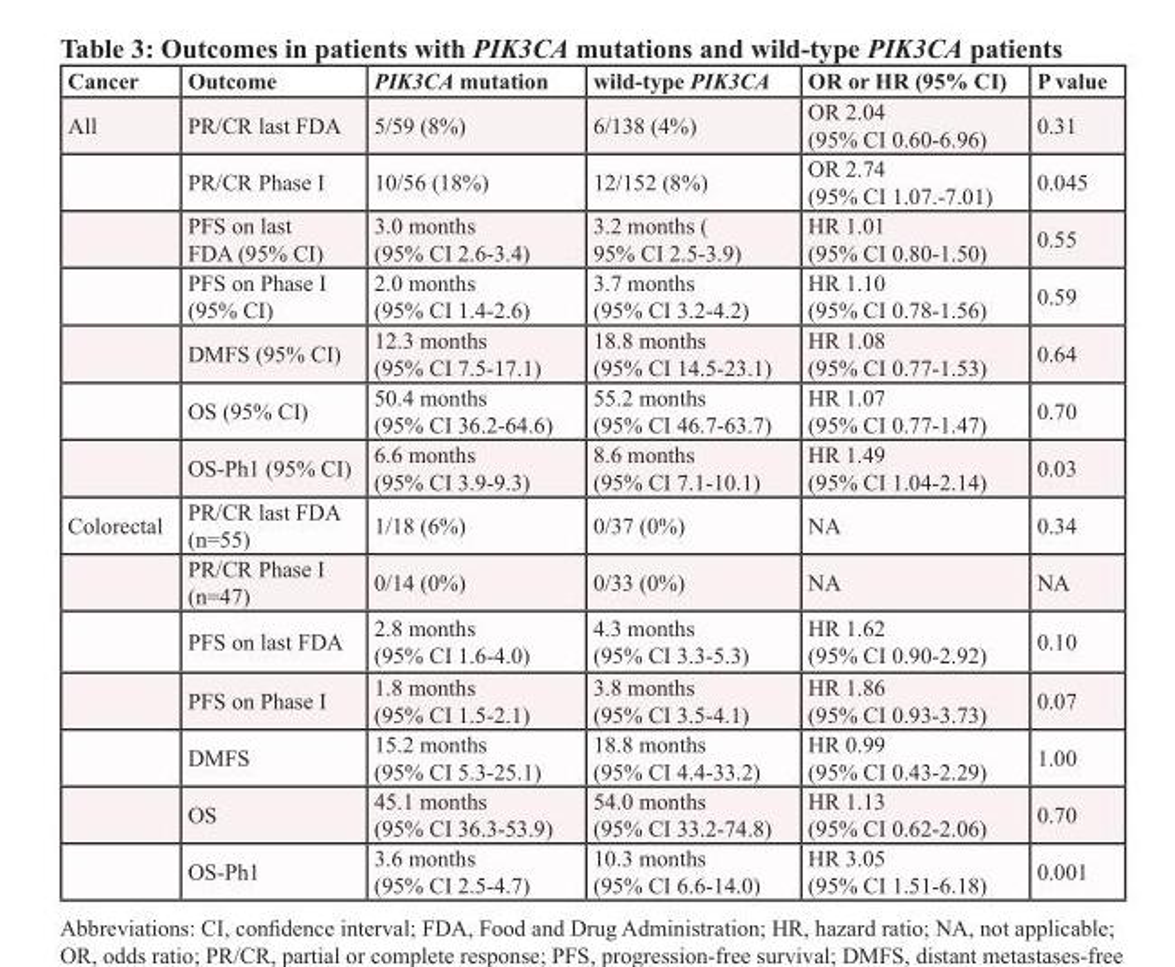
<table><thead><tr><td>Cancer</td><td>Outcome</td><td>PIK3CA mutation</td><td>wild-type PIK3CA</td><td>OR or HR (95% CI)</td><td>P value</td></tr></thead><tbody><tr><td rowspan="7">All</td><td>PR/CR last FDA</td><td>5/59 (8%)</td><td>6/138 (4%)</td><td>OR 2.04 (95% CI 0.60-6.96)</td><td>0.31</td></tr><tr><td>PR/CR Phase I</td><td>10/56 (18%)</td><td>12/152 (8%)</td><td>OR 2.74 (95% CI 1.07.-7.01)</td><td>0.045</td></tr><tr><td>PFS on last FDA (95% CI)</td><td>3.0 months (95% CI 2.6-3.4)</td><td>3.2 months ( 95% CI 2.5-3.9)</td><td>HR 1.01 (95% CI 0.80-1.50)</td><td>0.55</td></tr><tr><td>PFS on Phase I (95% CI)</td><td>2.0 months (95% CI 1.4-2.6)</td><td>3.7 months (95% CI 3.2-4.2)</td><td>HR 1.10 (95% CI 0.78-1.56)</td><td>0.59</td></tr><tr><td>DMFS (95% CI)</td><td>12.3 months (95% CI 7.5-17.1)</td><td>18.8 months (95% CI 14.5-23.1)</td><td>HR 1.08 (95% CI 0.77-1.53)</td><td>0.64</td></tr><tr><td>OS (95% CI)</td><td>50.4 months (95% CI 36.2-64.6)</td><td>55.2 months (95% CI 46.7-63.7)</td><td>HR 1.07 (95% CI 0.77-1.47)</td><td>0.70</td></tr><tr><td>OS-Ph1 (95% CI)</td><td>6.6 months (95% CI 3.9-9.3)</td><td>8.6 months (95% CI 7.1-10.1)</td><td>HR 1.49 (95% CI 1.04-2.14)</td><td>0.03</td></tr><tr><td rowspan="7">Colorectal</td><td>PR/CR last FDA (n=55)</td><td>1/18 (6%)</td><td>0/37 (0%)</td><td>NA</td><td>0.34</td></tr><tr><td>PR/CR Phase I (n=47)</td><td>0/14 (0%)</td><td>0/33 (0%)</td><td>NA</td><td>NA</td></tr><tr><td>PFS on last FDA</td><td>2.8 months (95% CI 1.6-4.0)</td><td>4.3 months (95% CI 3.3-5.3)</td><td>HR 1.62 (95% CI 0.90-2.92)</td><td>0.10</td></tr><tr><td>PFS on Phase I</td><td>1.8 months (95% CI 1.5-2.1)</td><td>3.8 months (95% CI 3.5-4.1)</td><td>HR 1.86 (95% CI 0.93-3.73)</td><td>0.07</td></tr><tr><td>DMFS</td><td>15.2 months (95% CI 5.3-25.1)</td><td>18.8 months (95% CI 4.4-33.2)</td><td>HR 0.99 (95% CI 0.43-2.29)</td><td>1.00</td></tr><tr><td>OS</td><td>45.1 months (95% CI 36.3-53.9)</td><td>54.0 months (95% CI 33.2-74.8)</td><td>HR 1.13 (95% CI 0.62-2.06)</td><td>0.70</td></tr><tr><td>OS-Ph1</td><td>3.6 months (95% CI 2.5-4.7)</td><td>10.3 months (95% CI 6.6-14.0)</td><td>HR 3.05 (95% CI 1.51-6.18)</td><td>0.001</td></tr></tbody></table>